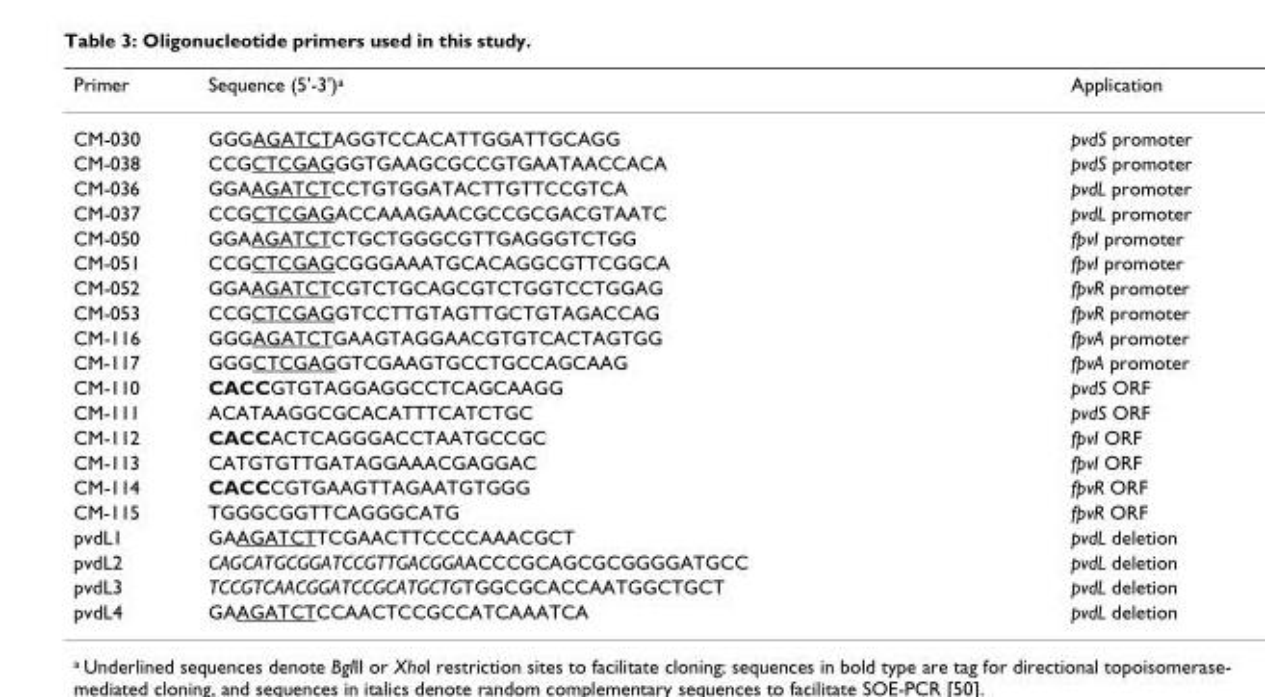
<table><thead><tr><td>Primer</td><td>Sequence (5&#x27;-3&#x27;)<sup>a</sup></td><td>Application</td></tr></thead><tbody><tr><td>CM-030</td><td>GGGAGATCTAGGTCCACATTGGATTGCAGG</td><td>pvdS promoter</td></tr><tr><td>CM-038</td><td>CCGCTCGAGGGTGAAGCGCCGTGAATAACCACA</td><td>pvdS promoter</td></tr><tr><td>CM-036</td><td>GGAAGATCTCCTGTGGATACTTGTTCCGTCA</td><td>pvdL promoter</td></tr><tr><td>CM-037</td><td>CCGCTCGAGACCAAAGAACGCCGCGACGTAATC</td><td>pvdL promoter</td></tr><tr><td>CM-050</td><td>GGAAGATCTCTGCTGGGCGTTGAGGGTCTGG</td><td>fpvI promoter</td></tr><tr><td>CM-051</td><td>CCGCTCGAGCGGGAAATGCACAGGCGTTCGGCA</td><td>fpvI promoter</td></tr><tr><td>CM-052</td><td>GGAAGATCTCGTCTGCAGCGTCTGGTCCTGGAG</td><td>fpvR promoter</td></tr><tr><td>CM-053</td><td>CCGCTCGAGGTCCTTGTAGTTGCTGTAGACCAG</td><td>fpvR promoter</td></tr><tr><td>CM-116</td><td>GGGAGATCTGAAGTAGGAACGTGTCACTAGTGG</td><td>fpvA promoter</td></tr><tr><td>CM-117</td><td>GGGCTCGAGGTCGAAGTGCCTGCCAGCAAG</td><td>fpvA promoter</td></tr><tr><td>CM-110</td><td>CACCGTGTAGGAGGCCTCAGCAAGG</td><td>pvdS ORF</td></tr><tr><td>CM-111</td><td>ACATAAGGCGCACATTTCATCTGC</td><td>pvdS ORF</td></tr><tr><td>CM-112</td><td>CACCACTCAGGGACCTAATGCCGC</td><td>fpvI ORF</td></tr><tr><td>CM-113</td><td>CATGTGTTGATAGGAAACGAGGAC</td><td>fpvI ORF</td></tr><tr><td>CM-114</td><td>CACCCGTGAAGTTAGAATGTGGG</td><td>fpvR ORF</td></tr><tr><td>CM-115</td><td>TGGGCGGTTCAGGGCATG</td><td>fpvR ORF</td></tr><tr><td>pvdL1</td><td>GAAGATCTTCGAACTTCCCCAAACGCT</td><td>pvdL deletion</td></tr><tr><td>pvdL2</td><td>CAGCATGCGGATCCGTTGACGGAACCCGCAGCGCGGGGATGCC</td><td>pvdL deletion</td></tr><tr><td>pvdL3</td><td>TCCGTCAACGGATCCGCATGCTGTGGCGCACCAATGGCTGCT</td><td>pvdL deletion</td></tr><tr><td>pvdL4</td><td>GAAGATCTCCAACTCCGCCATCAAATCA</td><td>pvdL deletion</td></tr></tbody></table>